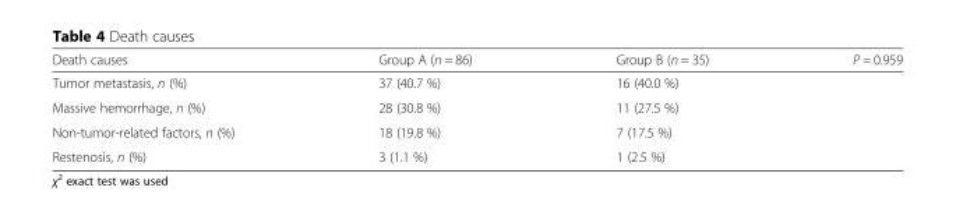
<table><thead><tr><td>Death causes</td><td>Group A (n = 86)</td><td>Group B (n = 35)</td><td>P = 0.959</td></tr></thead><tbody><tr><td>Tumor metastasis, n (%)</td><td>37 (40.7 %)</td><td>16 (40.0 %)</td><td></td></tr><tr><td>Massive hemorrhage, n (%)</td><td>28 (30.8 %)</td><td>11 (27.5 %)</td><td></td></tr><tr><td>Non-tumor-related factors, n (%)</td><td>18 (19.8 %)</td><td>7 (17.5 %)</td><td></td></tr><tr><td>Restenosis, n (%)</td><td>3 (1.1 %)</td><td>1 (2.5 %)</td><td></td></tr></tbody></table>